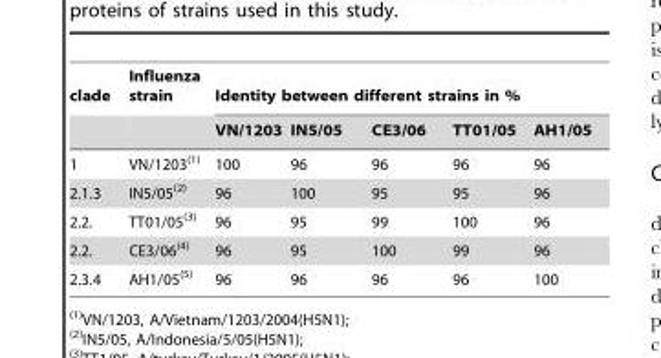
<table><thead><tr><td rowspan="2">clade</td><td rowspan="2">Influenza strain</td><td colspan="5">Identity between different strains in %</td></tr><tr><td>VN/1203</td><td>IN5/05</td><td>CE3/06</td><td>TT01/05</td><td>AH1/05</td></tr></thead><tbody><tr><td>1</td><td>VN/1203(1)</td><td>100</td><td>96</td><td>96</td><td>96</td><td>96</td></tr><tr><td>2.1.3</td><td>IN5/05(2)</td><td>96</td><td>100</td><td>95</td><td>95</td><td>96</td></tr><tr><td>2.2.</td><td>TT01/05(3)</td><td>96</td><td>95</td><td>99</td><td>100</td><td>96</td></tr><tr><td>2.2.</td><td>CE3/06(4)</td><td>96</td><td>95</td><td>100</td><td>99</td><td>96</td></tr><tr><td>2.3.4</td><td>AH1/05(5)</td><td>96</td><td>96</td><td>96</td><td>96</td><td>100</td></tr></tbody></table>